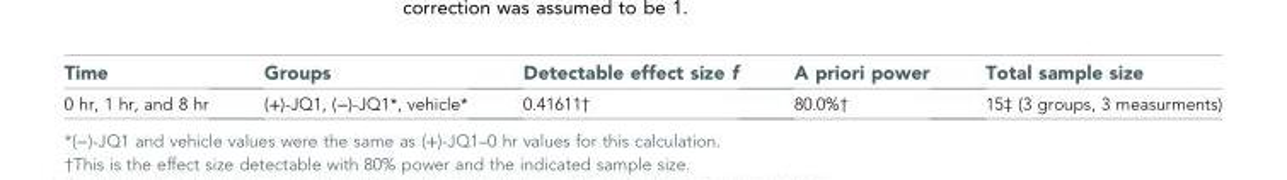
<table><thead><tr><td>Time</td><td>Groups</td><td>Detectable effect size f</td><td>A priori power</td><td>Total sample size</td></tr></thead><tbody><tr><td>0 hr, 1 hr, and 8 hr</td><td>(+)-JQ1, (−)-JQ1*, vehicle*</td><td>0.41611†</td><td>80.0%†</td><td>15‡ (3 groups, 3 measurments)</td></tr></tbody></table>